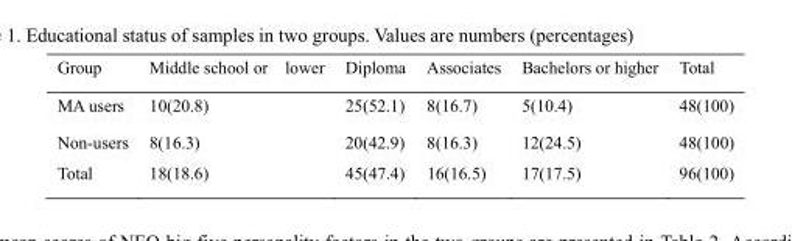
<table><thead><tr><td>Group</td><td>Middle school or lower</td><td>Diploma</td><td>Associates</td><td>Bachelors or higher</td><td>Total</td></tr></thead><tbody><tr><td>MA users</td><td>10(20.8)</td><td>25(52.1)</td><td>8(16.7)</td><td>5(10.4)</td><td>48(100)</td></tr><tr><td>Non-users</td><td>8(16.3)</td><td>20(42.9)</td><td>8(16.3)</td><td>12(24.5)</td><td>48(100)</td></tr><tr><td>Total</td><td>18(18.6)</td><td>45(47.4)</td><td>16(16.5)</td><td>17(17.5)</td><td>96(100)</td></tr></tbody></table>